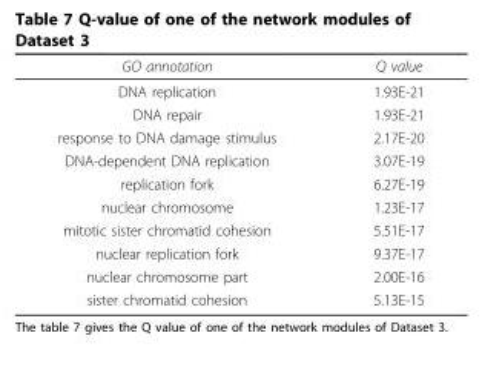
<table><thead><tr><td>GO annotation</td><td>Q value</td></tr></thead><tbody><tr><td>DNA replication</td><td>1.93E-21</td></tr><tr><td>DNA repair</td><td>1.93E-21</td></tr><tr><td>response to DNA damage stimulus</td><td>2.17E-20</td></tr><tr><td>DNA-dependent DNA replication</td><td>3.07E-19</td></tr><tr><td>replication fork</td><td>6.27E-19</td></tr><tr><td>nuclear chromosome</td><td>1.23E-17</td></tr><tr><td>mitotic sister chromatid cohesion</td><td>5.51E-17</td></tr><tr><td>nuclear replication fork</td><td>9.37E-17</td></tr><tr><td>nuclear chromosome part</td><td>2.00E-16</td></tr><tr><td>sister chromatid cohesion</td><td>5.13E-15</td></tr></tbody></table>